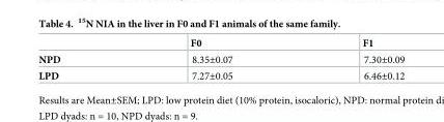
<table><thead><tr><td></td><td>F0</td><td>F1</td></tr></thead><tbody><tr><td>NPD</td><td>8.35±0.07</td><td>7.30±0.09</td></tr><tr><td>LPD</td><td>7.27±0.05</td><td>6.46±0.12</td></tr></tbody></table>